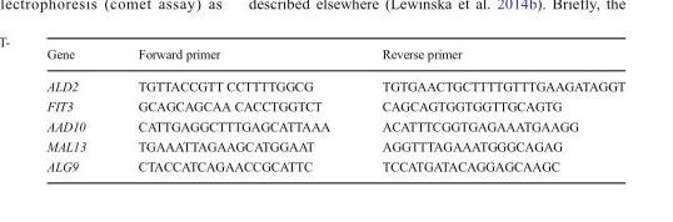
<table><thead><tr><td>Gene</td><td>Forward primer</td><td>Reverse primer</td></tr></thead><tbody><tr><td>ALD2</td><td>TGTTACCGTT CCTTTTGGCG</td><td>TGTGAACTGCTTTTGTTTGAAGATAGGT</td></tr><tr><td>FIT3</td><td>GCAGCAGCAA CACCTGGTCT</td><td>CAGCAGTGGTGGTTGCAGTG</td></tr><tr><td>AAD10</td><td>CATTGAGGCTTTGAGCATTAAA</td><td>ACATTTCGGTGAGAAATGAAGG</td></tr><tr><td>MAL13</td><td>TGAAATTAGAAGCATGGAAT</td><td>AGGTTTAGAAATGGGCAGAG</td></tr><tr><td>ALG9</td><td>CTACCATCAGAACCGCATTC</td><td>TCCATGATACAGGAGCAAGC</td></tr></tbody></table>